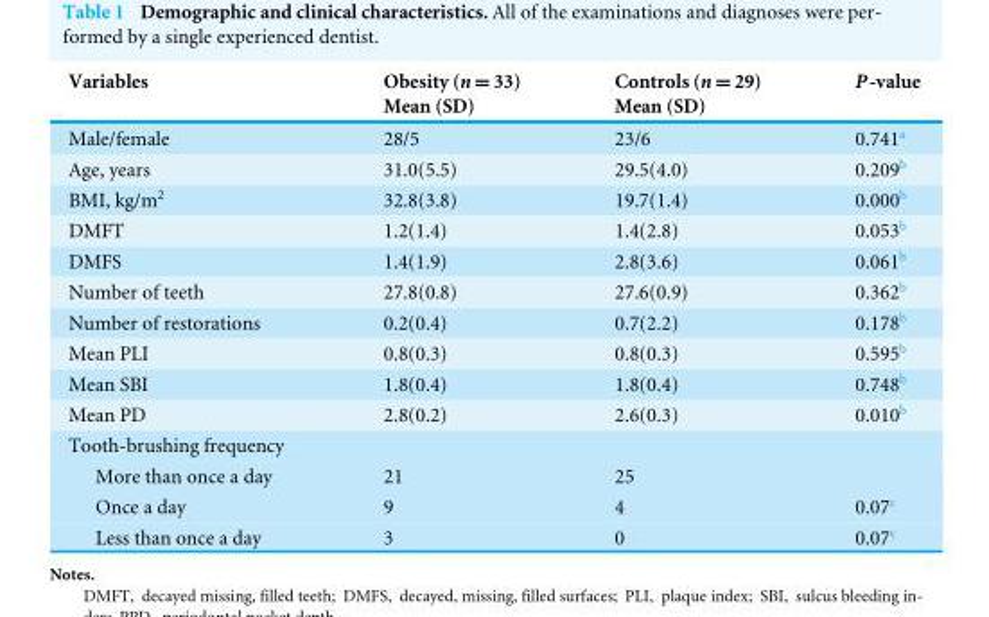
<table><thead><tr><td>Variables</td><td>Obesity (n = 33) Mean (SD)</td><td>Controls (n = 29) Mean (SD)</td><td>P-value</td></tr></thead><tbody><tr><td>Male/female</td><td>28/5</td><td>23/6</td><td>0.741<sup>a</sup></td></tr><tr><td>Age, years</td><td>31.0(5.5)</td><td>29.5(4.0)</td><td>0.209<sup>b</sup></td></tr><tr><td>BMI, kg/m<sup>2</sup></td><td>32.8(3.8)</td><td>19.7(1.4)</td><td>0.000<sup>b</sup></td></tr><tr><td>DMFT</td><td>1.2(1.4)</td><td>1.4(2.8)</td><td>0.053<sup>b</sup></td></tr><tr><td>DMFS</td><td>1.4(1.9)</td><td>2.8(3.6)</td><td>0.061<sup>b</sup></td></tr><tr><td>Number of teeth</td><td>27.8(0.8)</td><td>27.6(0.9)</td><td>0.362<sup>b</sup></td></tr><tr><td>Number of restorations</td><td>0.2(0.4)</td><td>0.7(2.2)</td><td>0.178<sup>b</sup></td></tr><tr><td>Mean PLI</td><td>0.8(0.3)</td><td>0.8(0.3)</td><td>0.595<sup>b</sup></td></tr><tr><td>Mean SBI</td><td>1.8(0.4)</td><td>1.8(0.4)</td><td>0.748<sup>b</sup></td></tr><tr><td>Mean PD</td><td>2.8(0.2)</td><td>2.6(0.3)</td><td>0.010<sup>b</sup></td></tr><tr><td colspan="4">Tooth-brushing frequency</td></tr><tr><td>More than once a day</td><td>21</td><td>25</td><td></td></tr><tr><td>Once a day</td><td>9</td><td>4</td><td>0.07<sup>c</sup></td></tr><tr><td>Less than once a day</td><td>3</td><td>0</td><td>0.07<sup>c</sup></td></tr></tbody></table>